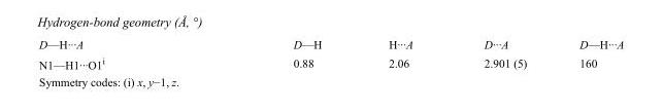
<table><tbody><tr><td>D—H···A</td><td>D—H</td><td>H···A</td><td>D···A</td><td>D—H···A</td></tr><tr><td>N1—H1···O1<sup>i</sup></td><td>0.88</td><td>2.06</td><td>2.901 (5)</td><td>160</td></tr></tbody></table>